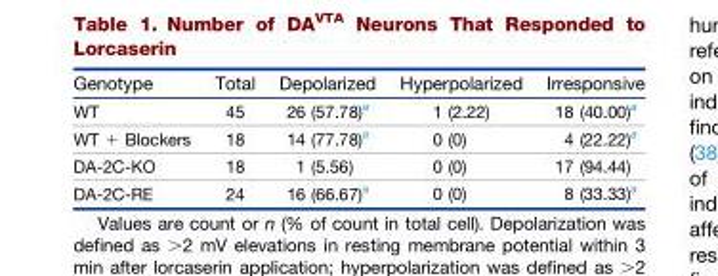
<table><thead><tr><td>Genotype</td><td>Total</td><td>Depolarized</td><td>Hyperpolarized</td><td>Irresponsive</td></tr></thead><tbody><tr><td>WT</td><td>45</td><td>26 (57.78)<sup>a</sup></td><td>1 (2.22)</td><td>18 (40.00)<sup>a</sup></td></tr><tr><td>WT + Blockers</td><td>18</td><td>14 (77.78)<sup>a</sup></td><td>0 (0)</td><td>4 (22.22)<sup>a</sup></td></tr><tr><td>DA-2C-KO</td><td>18</td><td>1 (5.56)</td><td>0 (0)</td><td>17 (94.44)</td></tr><tr><td>DA-2C-RE</td><td>24</td><td>16 (66.67)<sup>a</sup></td><td>0 (0)</td><td>8 (33.33)<sup>a</sup></td></tr></tbody></table>